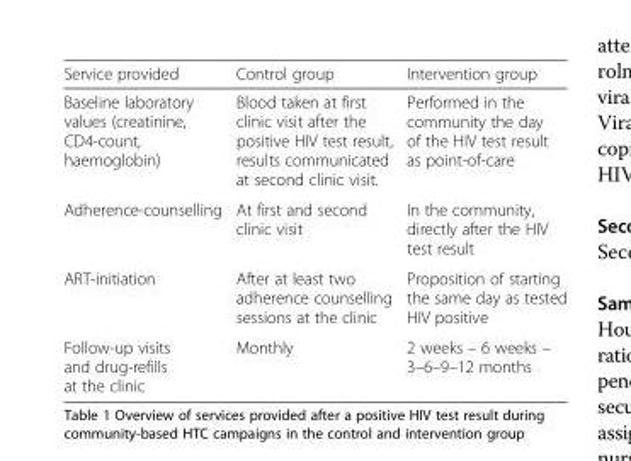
<table><thead><tr><td>Service provided</td><td>Control group</td><td>Intervention group</td></tr></thead><tbody><tr><td>Baseline laboratory values (creatinine, CD4-count, haemoglobin)</td><td>Blood taken at first clinic visit after the positive HIV test result, results communicated at second clinic visit.</td><td>Performed in the community the day of the HIV test result as point-of-care</td></tr><tr><td>Adherence-counselling</td><td>At first and second clinic visit</td><td>In the community, directly after the HIV test result</td></tr><tr><td>ART-initiation</td><td>After at least two adherence counselling sessions at the clinic</td><td>Proposition of starting the same day as tested HIV positive</td></tr><tr><td>Follow-up visits and drug-refills at the clinic</td><td>Monthly</td><td>2 weeks – 6 weeks – 3–6–9–12 months</td></tr></tbody></table>